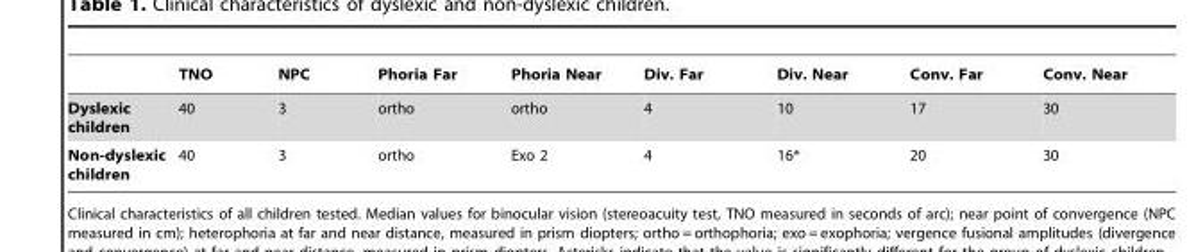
<table><thead><tr><td></td><td>TNO</td><td>NPC</td><td>Phoria Far</td><td>Phoria Near</td><td>Div. Far</td><td>Div. Near</td><td>Conv. Far</td><td>Conv. Near</td></tr></thead><tbody><tr><td>Dyslexic children</td><td>40</td><td>3</td><td>ortho</td><td>ortho</td><td>4</td><td>10</td><td>17</td><td>30</td></tr><tr><td>Non-dyslexic children</td><td>40</td><td>3</td><td>ortho</td><td>Exo 2</td><td>4</td><td>16*</td><td>20</td><td>30</td></tr></tbody></table>